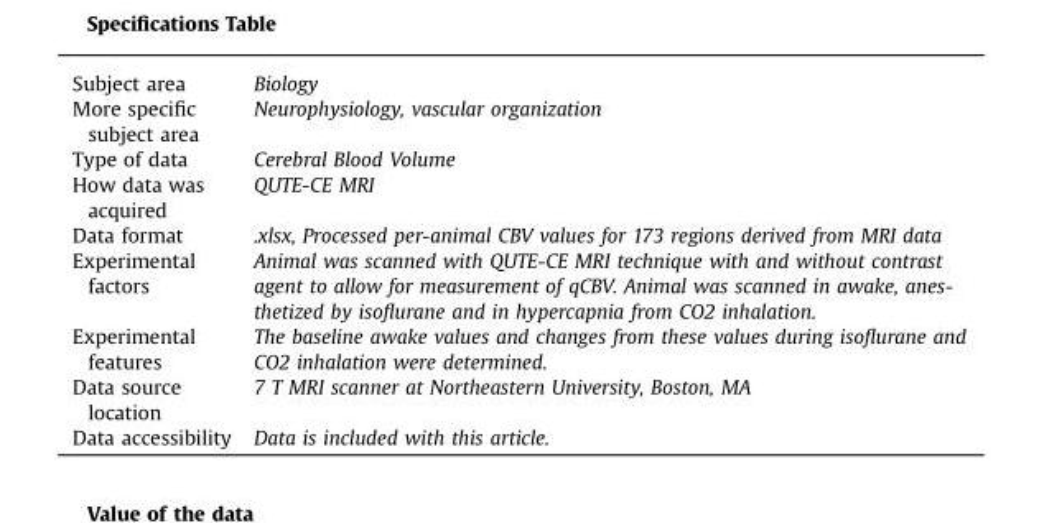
<table><tbody><tr><td>Subject area</td><td>Biology</td></tr><tr><td>More specific subject area</td><td>Neurophysiology, vascular organization</td></tr><tr><td>Type of data</td><td>Cerebral Blood Volume</td></tr><tr><td>How data was acquired</td><td>QUTE-CE MRI</td></tr><tr><td>Data format</td><td>.xlsx, Processed per-animal CBV values for 173 regions derived from MRI data</td></tr><tr><td>Experimental factors</td><td>Animal was scanned with QUTE-CE MRI technique with and without contrast agent to allow for measurement of qCBV. Animal was scanned in awake, anes- thetized by isoflurane and in hypercapnia from CO2 inhalation.</td></tr><tr><td>Experimental features</td><td>The baseline awake values and changes from these values during isoflurane and CO2 inhalation were determined.</td></tr><tr><td>Data source location</td><td>7 T MRI scanner at Northeastern University, Boston, MA</td></tr><tr><td>Data accessibility</td><td>Data is included with this article.</td></tr></tbody></table>